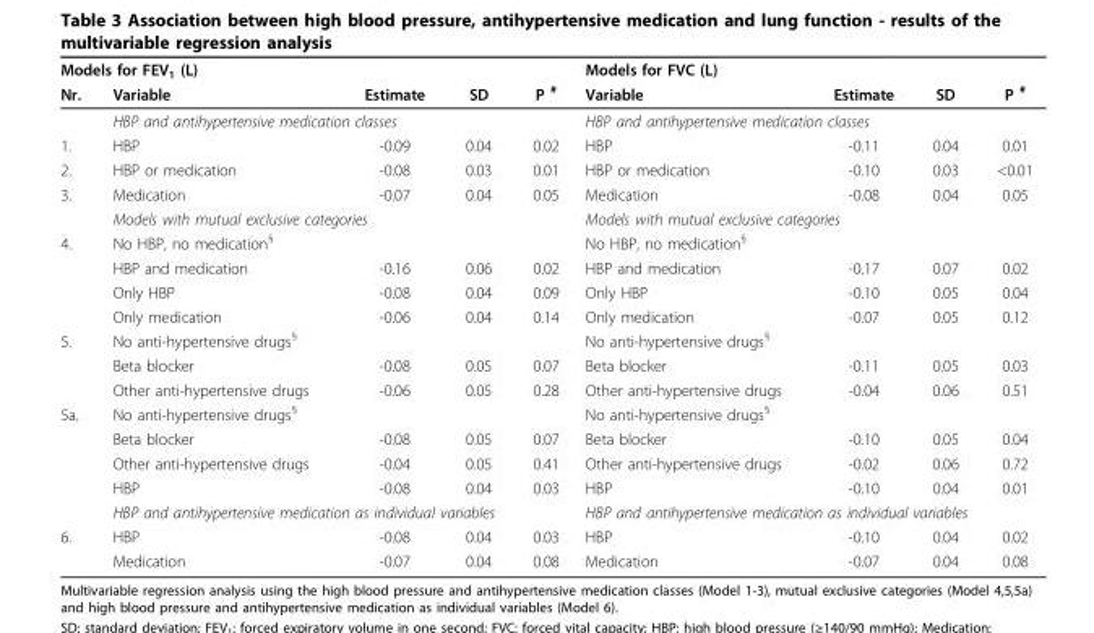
<table><thead><tr><td colspan="2">Models for FEV<sub>1</sub> (L)</td><td rowspan="2">Estimate</td><td rowspan="2">SD</td><td rowspan="2">P <sup>#</sup></td><td rowspan="2">Models for FVC (L) Variable</td><td rowspan="2">Estimate</td><td rowspan="2">SD</td><td rowspan="2">P <sup>#</sup></td></tr><tr><td>Nr.</td><td>Variable</td></tr></thead><tbody><tr><td></td><td colspan="4">HBP and antihypertensive medication classes</td><td colspan="4">HBP and antihypertensive medication classes</td></tr><tr><td>1.</td><td>HBP</td><td>-0.09</td><td>0.04</td><td>0.02</td><td>HBP</td><td>-0.11</td><td>0.04</td><td>0.01</td></tr><tr><td>2.</td><td>HBP or medication</td><td>-0.08</td><td>0.03</td><td>0.01</td><td>HBP or medication</td><td>-0.10</td><td>0.03</td><td>&lt;0.01</td></tr><tr><td rowspan="2">3.</td><td>Medication</td><td>-0.07</td><td>0.04</td><td>0.05</td><td>Medication</td><td>-0.08</td><td>0.04</td><td>0.05</td></tr><tr><td colspan="4">Models with mutual exclusive categories</td><td colspan="4">Models with mutual exclusive categories</td></tr><tr><td rowspan="4">4.</td><td colspan="2">No HBP, no medication<sup>§</sup></td><td></td><td></td><td colspan="2">No HBP, no medication<sup>§</sup></td><td></td><td></td></tr><tr><td>HBP and medication</td><td>-0.16</td><td>0.06</td><td>0.02</td><td>HBP and medication</td><td>-0.17</td><td>0.07</td><td>0.02</td></tr><tr><td>Only HBP</td><td>-0.08</td><td>0.04</td><td>0.09</td><td>Only HBP</td><td>-0.10</td><td>0.05</td><td>0.04</td></tr><tr><td>Only medication</td><td>-0.06</td><td>0.04</td><td>0.14</td><td>Only medication</td><td>-0.07</td><td>0.05</td><td>0.12</td></tr><tr><td rowspan="3">5.</td><td colspan="2">No anti-hypertensive drugs<sup>§</sup></td><td></td><td></td><td colspan="2">No anti-hypertensive drugs<sup>§</sup></td><td></td><td></td></tr><tr><td>Beta blocker</td><td>-0.08</td><td>0.05</td><td>0.07</td><td>Beta blocker</td><td>-0.11</td><td>0.05</td><td>0.03</td></tr><tr><td>Other anti-hypertensive drugs</td><td>-0.06</td><td>0.05</td><td>0.28</td><td>Other anti-hypertensive drugs</td><td>-0.04</td><td>0.06</td><td>0.51</td></tr><tr><td rowspan="5">5a.</td><td colspan="2">No anti-hypertensive drugs<sup>§</sup></td><td></td><td></td><td colspan="2">No anti-hypertensive drugs<sup>§</sup></td><td></td><td></td></tr><tr><td>Beta blocker</td><td>-0.08</td><td>0.05</td><td>0.07</td><td>Beta blocker</td><td>-0.10</td><td>0.05</td><td>0.04</td></tr><tr><td>Other anti-hypertensive drugs</td><td>-0.04</td><td>0.05</td><td>0.41</td><td>Other anti-hypertensive drugs</td><td>-0.02</td><td>0.06</td><td>0.72</td></tr><tr><td>HBP</td><td>-0.08</td><td>0.04</td><td>0.03</td><td>HBP</td><td>-0.10</td><td>0.04</td><td>0.01</td></tr><tr><td colspan="4">HBP and antihypertensive medication as individual variables</td><td colspan="4">HBP and antihypertensive medication as individual variables</td></tr><tr><td rowspan="2">6.</td><td>HBP</td><td>-0.08</td><td>0.04</td><td>0.03</td><td>HBP</td><td>-0.10</td><td>0.04</td><td>0.02</td></tr><tr><td>Medication</td><td>-0.07</td><td>0.04</td><td>0.08</td><td>Medication</td><td>-0.07</td><td>0.04</td><td>0.08</td></tr></tbody></table>